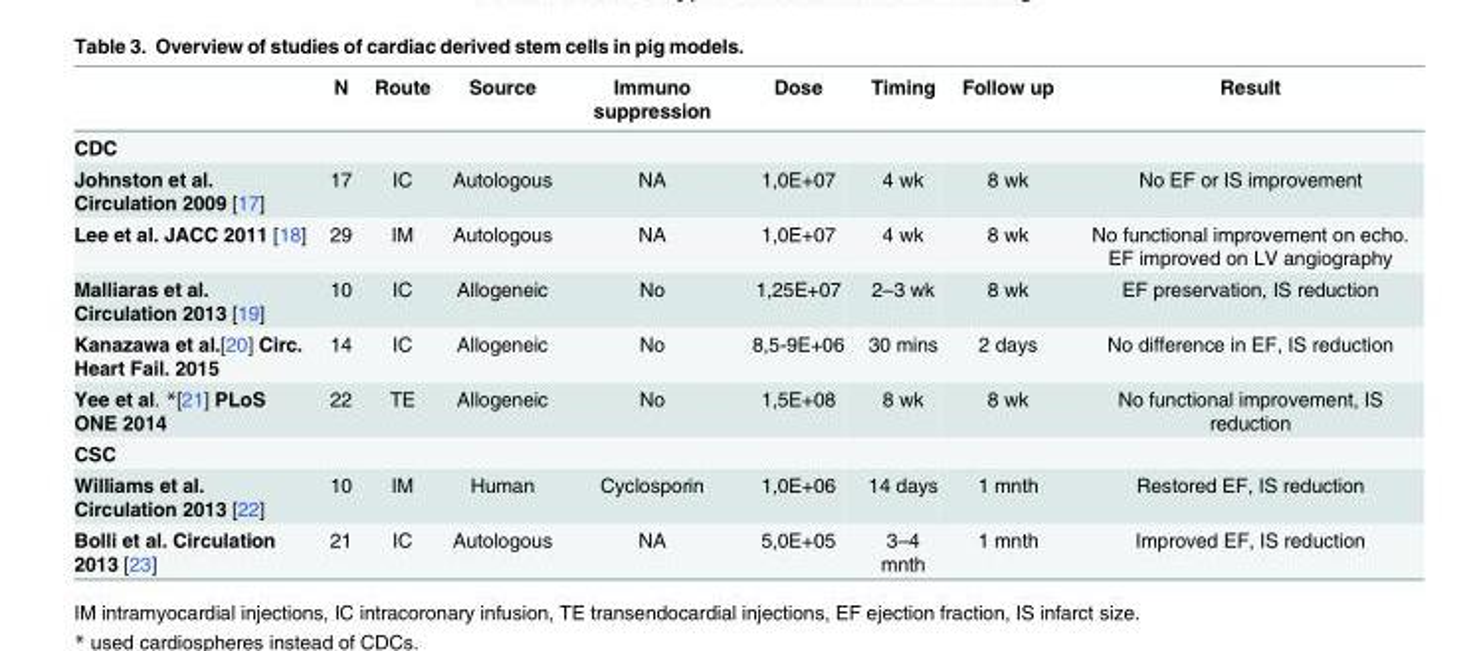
<table><thead><tr><td></td><td>N</td><td>Route</td><td>Source</td><td>Immuno suppression</td><td>Dose</td><td>Timing</td><td>Follow up</td><td>Result</td></tr></thead><tbody><tr><td colspan="9">CDC</td></tr><tr><td>Johnston et al. Circulation 2009 [17]</td><td>17</td><td>IC</td><td>Autologous</td><td>NA</td><td>1,0E+07</td><td>4 wk</td><td>8 wk</td><td>No EF or IS improvement</td></tr><tr><td>Lee et al. JACC 2011 [18]</td><td>29</td><td>IM</td><td>Autologous</td><td>NA</td><td>1,0E+07</td><td>4 wk</td><td>8 wk</td><td>No functional improvement on echo. EF improved on LV angiography</td></tr><tr><td>Malliaras et al. Circulation 2013 [19]</td><td>10</td><td>IC</td><td>Allogeneic</td><td>No</td><td>1,25E+07</td><td>2–3 wk</td><td>8 wk</td><td>EF preservation, IS reduction</td></tr><tr><td>Kanazawa et al.[20] Circ. Heart Fail. 2015</td><td>14</td><td>IC</td><td>Allogeneic</td><td>No</td><td>8,5-9E+06</td><td>30 mins</td><td>2 days</td><td>No difference in EF, IS reduction</td></tr><tr><td>Yee et al. *[21] PLoS ONE 2014</td><td>22</td><td>TE</td><td>Allogeneic</td><td>No</td><td>1,5E+08</td><td>8 wk</td><td>8 wk</td><td>No functional improvement, IS reduction</td></tr><tr><td colspan="9">CSC</td></tr><tr><td>Williams et al. Circulation 2013 [22]</td><td>10</td><td>IM</td><td>Human</td><td>Cyclosporin</td><td>1,0E+06</td><td>14 days</td><td>1 mnth</td><td>Restored EF, IS reduction</td></tr><tr><td>Bolli et al. Circulation 2013 [23]</td><td>21</td><td>IC</td><td>Autologous</td><td>NA</td><td>5,0E+05</td><td>3–4 mnth</td><td>1 mnth</td><td>Improved EF, IS reduction</td></tr></tbody></table>